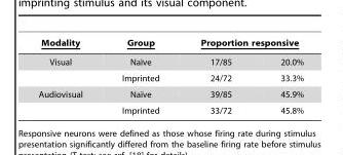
<table><thead><tr><td rowspan="2">Modality Visual</td><td rowspan="2">Group Naı¨ve</td><td colspan="2">Proportion responsive</td></tr><tr><td>17/85</td><td>20.0%</td></tr></thead><tbody><tr><td></td><td>Imprinted</td><td>24/72</td><td>33.3%</td></tr><tr><td rowspan="2">Audiovisual</td><td>Naı¨ve</td><td>39/85</td><td>45.9%</td></tr><tr><td>Imprinted</td><td>33/72</td><td>45.8%</td></tr></tbody></table>